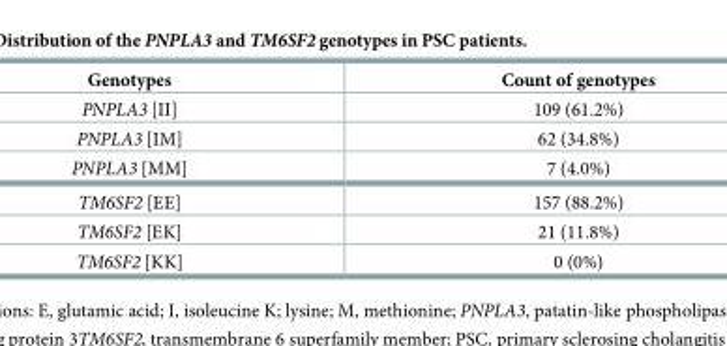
<table><thead><tr><td>Genotypes</td><td>Count of genotypes</td></tr></thead><tbody><tr><td>PNPLA3 [II]</td><td>109 (61.2%)</td></tr><tr><td>PNPLA3 [IM]</td><td>62 (34.8%)</td></tr><tr><td>PNPLA3 [MM]</td><td>7 (4.0%)</td></tr><tr><td>TM6SF2 [EE]</td><td>157 (88.2%)</td></tr><tr><td>TM6SF2 [EK]</td><td>21 (11.8%)</td></tr><tr><td>TM6SF2 [KK]</td><td>0 (0%)</td></tr></tbody></table>